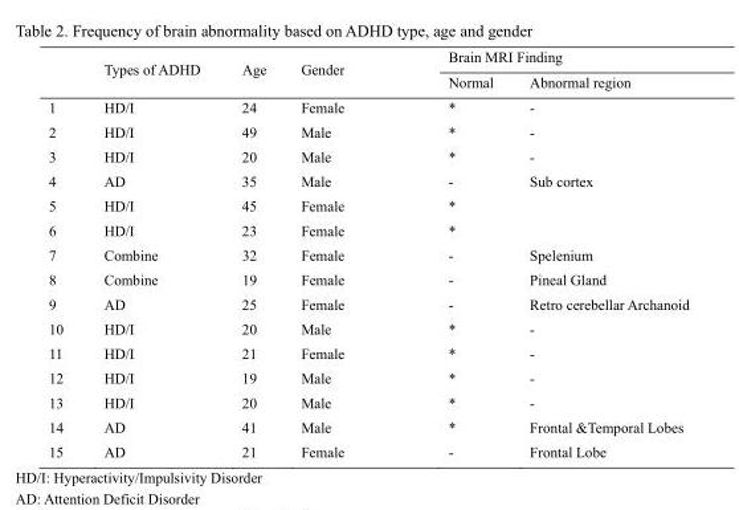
<table><thead><tr><td rowspan="2"></td><td rowspan="2">Types of ADHD</td><td rowspan="2">Age</td><td rowspan="2">Gender</td><td colspan="2">Brain MRI Finding</td></tr><tr><td>Normal</td><td>Abnormal region</td></tr></thead><tbody><tr><td>1</td><td>HD/I</td><td>24</td><td>Female</td><td>*</td><td>-</td></tr><tr><td>2</td><td>HD/I</td><td>49</td><td>Male</td><td>*</td><td>-</td></tr><tr><td>3</td><td>HD/I</td><td>20</td><td>Male</td><td>*</td><td>-</td></tr><tr><td>4</td><td>AD</td><td>35</td><td>Male</td><td>-</td><td>Sub cortex</td></tr><tr><td>5</td><td>HD/I</td><td>45</td><td>Female</td><td>*</td><td></td></tr><tr><td>6</td><td>HD/I</td><td>23</td><td>Female</td><td>*</td><td></td></tr><tr><td>7</td><td>Combine</td><td>32</td><td>Female</td><td>-</td><td>Spelenium</td></tr><tr><td>8</td><td>Combine</td><td>19</td><td>Female</td><td>-</td><td>Pineal Gland</td></tr><tr><td>9</td><td>AD</td><td>25</td><td>Female</td><td>-</td><td>Retro cerebellar Archanoid</td></tr><tr><td>10</td><td>HD/I</td><td>20</td><td>Male</td><td>*</td><td>-</td></tr><tr><td>11</td><td>HD/I</td><td>21</td><td>Female</td><td>*</td><td>-</td></tr><tr><td>12</td><td>HD/I</td><td>19</td><td>Male</td><td>*</td><td>-</td></tr><tr><td>13</td><td>HD/I</td><td>20</td><td>Male</td><td>*</td><td>-</td></tr><tr><td>14</td><td>AD</td><td>41</td><td>Male</td><td>*</td><td>Frontal &amp;Temporal Lobes</td></tr><tr><td>15</td><td>AD</td><td>21</td><td>Female</td><td>-</td><td>Frontal Lobe</td></tr></tbody></table>